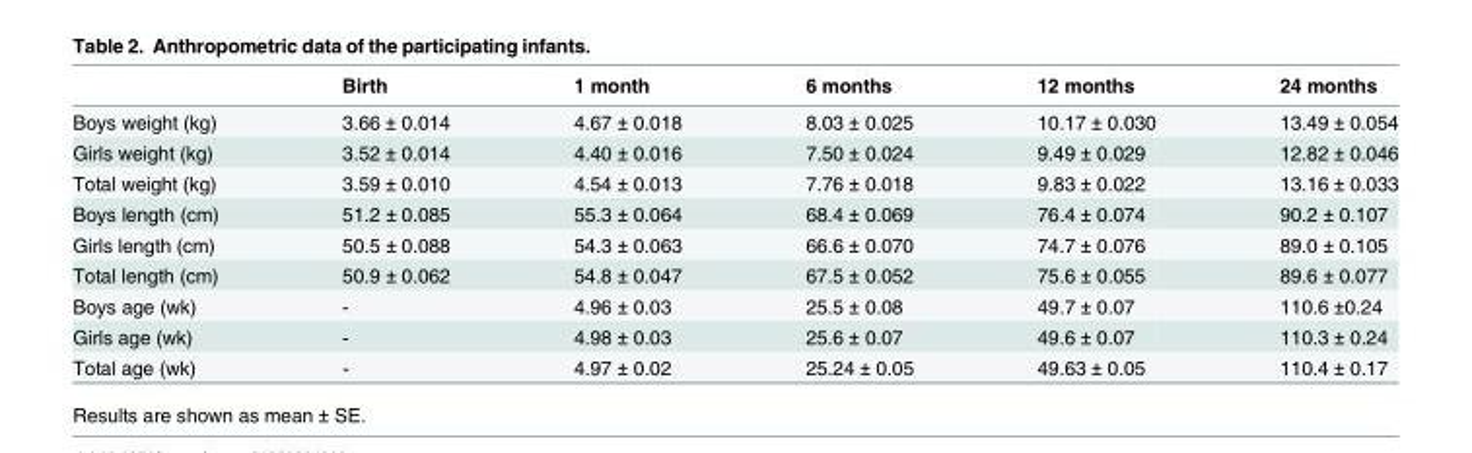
<table><thead><tr><td></td><td>Birth</td><td>1 month</td><td>6 months</td><td>12 months</td><td>24 months</td></tr></thead><tbody><tr><td>Boys weight (kg)</td><td>3.66 ± 0.014</td><td>4.67 ± 0.018</td><td>8.03 ± 0.025</td><td>10.17 ± 0.030</td><td>13.49 ± 0.054</td></tr><tr><td>Girls weight (kg)</td><td>3.52 ± 0.014</td><td>4.40 ± 0.016</td><td>7.50 ± 0.024</td><td>9.49 ± 0.029</td><td>12.82 ± 0.046</td></tr><tr><td>Total weight (kg)</td><td>3.59 ± 0.010</td><td>4.54 ± 0.013</td><td>7.76 ± 0.018</td><td>9.83 ± 0.022</td><td>13.16 ± 0.033</td></tr><tr><td>Boys length (cm)</td><td>51.2 ± 0.085</td><td>55.3 ± 0.064</td><td>68.4 ± 0.069</td><td>76.4 ± 0.074</td><td>90.2 ± 0.107</td></tr><tr><td>Girls length (cm)</td><td>50.5 ± 0.088</td><td>54.3 ± 0.063</td><td>66.6 ± 0.070</td><td>74.7 ± 0.076</td><td>89.0 ± 0.105</td></tr><tr><td>Total length (cm)</td><td>50.9 ± 0.062</td><td>54.8 ± 0.047</td><td>67.5 ± 0.052</td><td>75.6 ± 0.055</td><td>89.6 ± 0.077</td></tr><tr><td>Boys age (wk)</td><td>-</td><td>4.96 ± 0.03</td><td>25.5 ± 0.08</td><td>49.7 ± 0.07</td><td>110.6 ±0.24</td></tr><tr><td>Girls age (wk)</td><td>-</td><td>4.98 ± 0.03</td><td>25.6 ± 0.07</td><td>49.6 ± 0.07</td><td>110.3 ± 0.24</td></tr><tr><td>Total age (wk)</td><td>-</td><td>4.97 ± 0.02</td><td>25.24 ± 0.05</td><td>49.63 ± 0.05</td><td>110.4 ± 0.17</td></tr></tbody></table>